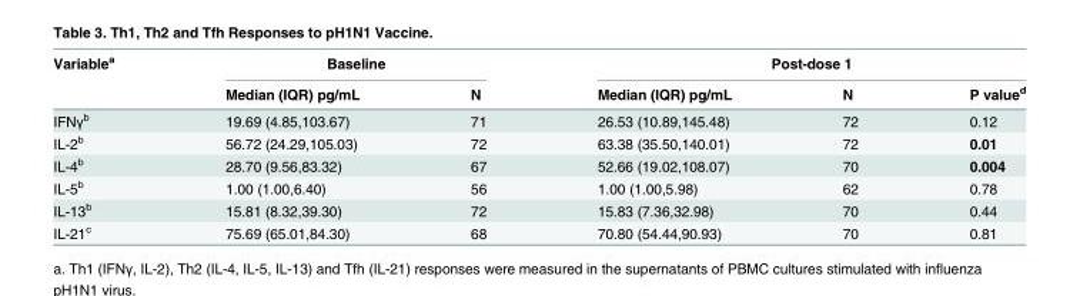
<table><thead><tr><td rowspan="2">Variable<sup>a</sup></td><td colspan="2">Baseline</td><td colspan="3">Post-dose 1</td></tr><tr><td>Median (IQR) pg/mL</td><td>N</td><td>Median (IQR) pg/mL</td><td>N</td><td>P value<sup>d</sup></td></tr></thead><tbody><tr><td>IFNγ<sup>b</sup></td><td>19.69 (4.85,103.67)</td><td>71</td><td>26.53 (10.89,145.48)</td><td>72</td><td>0.12</td></tr><tr><td>IL-2<sup>b</sup></td><td>56.72 (24.29,105.03)</td><td>72</td><td>63.38 (35.50,140.01)</td><td>72</td><td>0.01</td></tr><tr><td>IL-4<sup>b</sup></td><td>28.70 (9.56,83.32)</td><td>67</td><td>52.66 (19.02,108.07)</td><td>70</td><td>0.004</td></tr><tr><td>IL-5<sup>b</sup></td><td>1.00 (1.00,6.40)</td><td>56</td><td>1.00 (1.00,5.98)</td><td>62</td><td>0.78</td></tr><tr><td>IL-13<sup>b</sup></td><td>15.81 (8.32,39.30)</td><td>72</td><td>15.83 (7.36,32.98)</td><td>70</td><td>0.44</td></tr><tr><td>IL-21<sup>c</sup></td><td>75.69 (65.01,84.30)</td><td>68</td><td>70.80 (54.44,90.93)</td><td>70</td><td>0.81</td></tr></tbody></table>